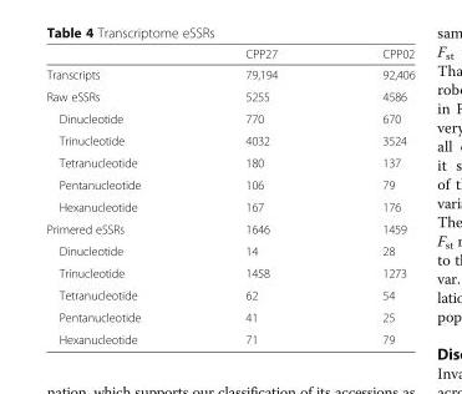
<table><thead><tr><td></td><td>CPP27</td><td>CPP02</td></tr></thead><tbody><tr><td>Transcripts</td><td>79,194</td><td>92,406</td></tr><tr><td>Raw eSSRs</td><td>5255</td><td>4586</td></tr><tr><td>Dinucleotide</td><td>770</td><td>670</td></tr><tr><td>Trinucleotide</td><td>4032</td><td>3524</td></tr><tr><td>Tetranucleotide</td><td>180</td><td>137</td></tr><tr><td>Pentanucleotide</td><td>106</td><td>79</td></tr><tr><td>Hexanucleotide</td><td>167</td><td>176</td></tr><tr><td>Primered eSSRs</td><td>1646</td><td>1459</td></tr><tr><td>Dinucleotide</td><td>14</td><td>28</td></tr><tr><td>Trinucleotide</td><td>1458</td><td>1273</td></tr><tr><td>Tetranucleotide</td><td>62</td><td>54</td></tr><tr><td>Pentanucleotide</td><td>41</td><td>25</td></tr><tr><td>Hexanucleotide</td><td>71</td><td>79</td></tr></tbody></table>